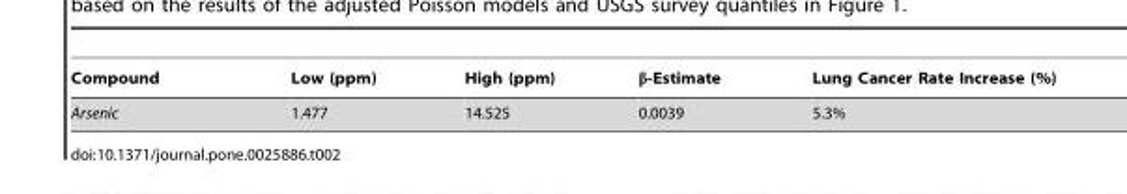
<table><thead><tr><td>Compound</td><td>Low (ppm)</td><td>High (ppm)</td><td>β-Estimate</td><td>Lung Cancer Rate Increase (%)</td></tr></thead><tbody><tr><td>Arsenic</td><td>1.477</td><td>14.525</td><td>0.0039</td><td>5.3%</td></tr></tbody></table>